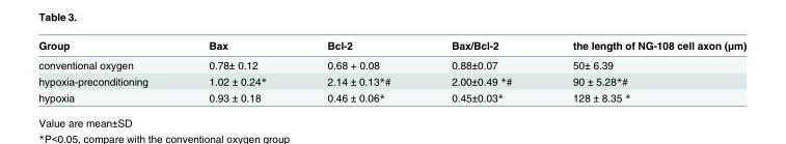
<table><thead><tr><td>Group</td><td>Bax</td><td>Bcl-2</td><td>Bax/Bcl-2</td><td>the length of NG-108 cell axon (μm)</td></tr></thead><tbody><tr><td>conventional oxygen</td><td>0.78± 0.12</td><td>0.68 + 0.08</td><td>0.88±0.07</td><td>50± 6.39</td></tr><tr><td>hypoxia-preconditioning</td><td>1.02 ± 0.24*</td><td>2.14 ± 0.13*#</td><td>2.00±0.49 *#</td><td>90 ± 5.28*#</td></tr><tr><td>hypoxia</td><td>0.93 ± 0.18</td><td>0.46 ± 0.06*</td><td>0.45±0.03*</td><td>128 ± 8.35 *</td></tr></tbody></table>